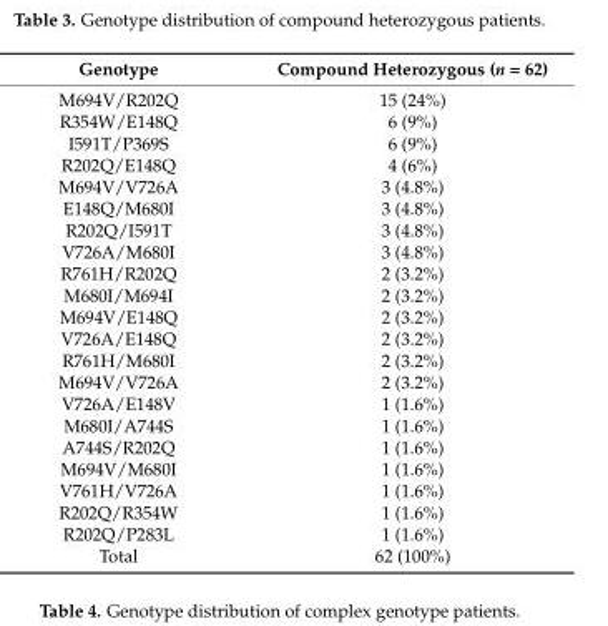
<table><thead><tr><td>Genotype</td><td>Compound Heterozygous (n = 62)</td></tr></thead><tbody><tr><td>M694V/R202Q</td><td>15 (24%)</td></tr><tr><td>R354W/E148Q</td><td>6 (9%)</td></tr><tr><td>I591T/P369S</td><td>6 (9%)</td></tr><tr><td>R202Q/E148Q</td><td>4 (6%)</td></tr><tr><td>M694V/V726A</td><td>3 (4.8%)</td></tr><tr><td>E148Q/M680I</td><td>3 (4.8%)</td></tr><tr><td>R202Q/I591T</td><td>3 (4.8%)</td></tr><tr><td>V726A/M680I</td><td>3 (4.8%)</td></tr><tr><td>R761H/R202Q</td><td>2 (3.2%)</td></tr><tr><td>M680I/M694I</td><td>2 (3.2%)</td></tr><tr><td>M694V/E148Q</td><td>2 (3.2%)</td></tr><tr><td>V726A/E148Q</td><td>2 (3.2%)</td></tr><tr><td>R761H/M680I</td><td>2 (3.2%)</td></tr><tr><td>M694V/V726A</td><td>2 (3.2%)</td></tr><tr><td>V726A/E148V</td><td>1 (1.6%)</td></tr><tr><td>M680I/A744S</td><td>1 (1.6%)</td></tr><tr><td>A744S/R202Q</td><td>1 (1.6%)</td></tr><tr><td>M694V/M680I</td><td>1 (1.6%)</td></tr><tr><td>V761H/V726A</td><td>1 (1.6%)</td></tr><tr><td>R202Q/R354W</td><td>1 (1.6%)</td></tr><tr><td>R202Q/P283L</td><td>1 (1.6%)</td></tr><tr><td>Total</td><td>62 (100%)</td></tr></tbody></table>